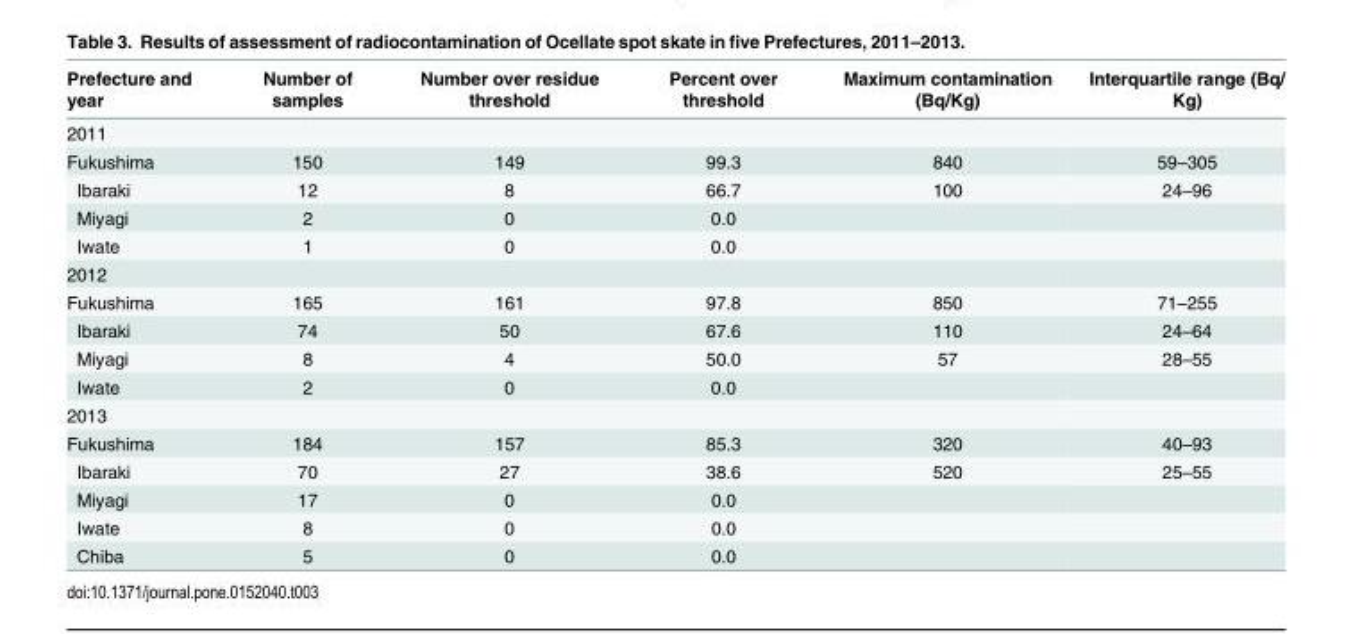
<table><thead><tr><td>Prefecture and year</td><td>Number of samples</td><td>Number over residue threshold</td><td>Percent over threshold</td><td>Maximum contamination (Bq/Kg)</td><td>Interquartile range (Bq/ Kg)</td></tr></thead><tbody><tr><td colspan="6">2011</td></tr><tr><td>Fukushima</td><td>150</td><td>149</td><td>99.3</td><td>840</td><td>59–305</td></tr><tr><td>Ibaraki</td><td>12</td><td>8</td><td>66.7</td><td>100</td><td>24–96</td></tr><tr><td>Miyagi</td><td>2</td><td>0</td><td>0.0</td><td></td><td></td></tr><tr><td>Iwate</td><td>1</td><td>0</td><td>0.0</td><td></td><td></td></tr><tr><td colspan="6">2012</td></tr><tr><td>Fukushima</td><td>165</td><td>161</td><td>97.8</td><td>850</td><td>71–255</td></tr><tr><td>Ibaraki</td><td>74</td><td>50</td><td>67.6</td><td>110</td><td>24–64</td></tr><tr><td>Miyagi</td><td>8</td><td>4</td><td>50.0</td><td>57</td><td>28–55</td></tr><tr><td>Iwate</td><td>2</td><td>0</td><td>0.0</td><td></td><td></td></tr><tr><td colspan="6">2013</td></tr><tr><td>Fukushima</td><td>184</td><td>157</td><td>85.3</td><td>320</td><td>40–93</td></tr><tr><td>Ibaraki</td><td>70</td><td>27</td><td>38.6</td><td>520</td><td>25–55</td></tr><tr><td>Miyagi</td><td>17</td><td>0</td><td>0.0</td><td></td><td></td></tr><tr><td>Iwate</td><td>8</td><td>0</td><td>0.0</td><td></td><td></td></tr><tr><td>Chiba</td><td>5</td><td>0</td><td>0.0</td><td></td><td></td></tr></tbody></table>